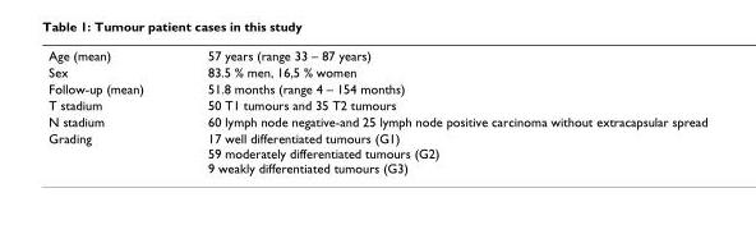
<table><tbody><tr><td>Age (mean)</td><td>57 years (range 33 – 87 years)</td></tr><tr><td>Sex</td><td>83.5 % men, 16,5 % women</td></tr><tr><td>Follow-up (mean)</td><td>51.8 months (range 4 – 154 months)</td></tr><tr><td>T stadium</td><td>50 T1 tumours and 35 T2 tumours</td></tr><tr><td>N stadium</td><td>60 lymph node negative-and 25 lymph node positive carcinoma without extracapsular spread</td></tr><tr><td>Grading</td><td>17 well differentiated tumours (G1) 59 moderately differentiated tumours (G2) 9 weakly differentiated tumours (G3)</td></tr></tbody></table>